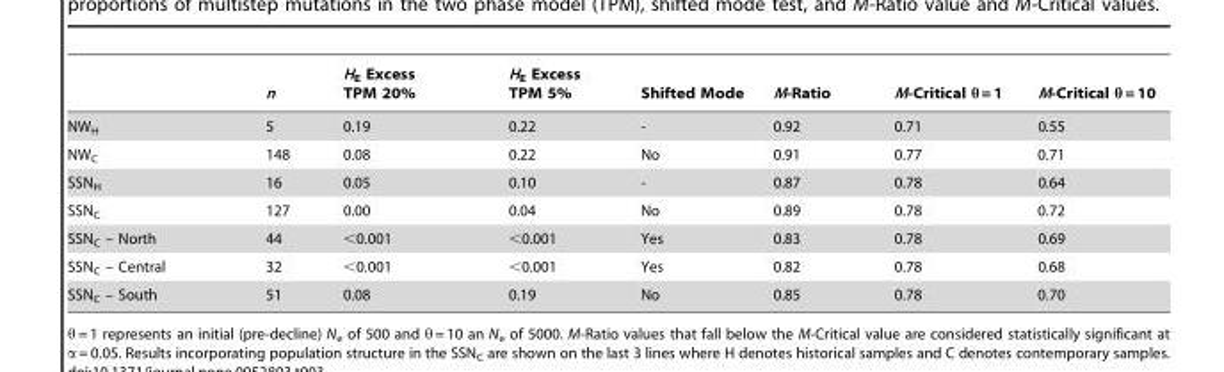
<table><thead><tr><td></td><td>n</td><td>H<sub>E</sub> Excess TPM 20%</td><td>H<sub>E</sub> Excess TPM 5%</td><td>Shifted Mode</td><td>M-Ratio</td><td>M-Critical θ = 1</td><td>M-Critical θ = 10</td></tr></thead><tbody><tr><td>NW<sub>H</sub></td><td>5</td><td>0.19</td><td>0.22</td><td>-</td><td>0.92</td><td>0.71</td><td>0.55</td></tr><tr><td>NW<sub>C</sub></td><td>148</td><td>0.08</td><td>0.22</td><td>No</td><td>0.91</td><td>0.77</td><td>0.71</td></tr><tr><td>SSN<sub>H</sub></td><td>16</td><td>0.05</td><td>0.10</td><td>-</td><td>0.87</td><td>0.78</td><td>0.64</td></tr><tr><td>SSN<sub>C</sub></td><td>127</td><td>0.00</td><td>0.04</td><td>No</td><td>0.89</td><td>0.78</td><td>0.72</td></tr><tr><td>SSN<sub>C</sub> – North</td><td>44</td><td>&lt;0.001</td><td>&lt;0.001</td><td>Yes</td><td>0.83</td><td>0.78</td><td>0.69</td></tr><tr><td>SSN<sub>C</sub> – Central</td><td>32</td><td>&lt;0.001</td><td>&lt;0.001</td><td>Yes</td><td>0.82</td><td>0.78</td><td>0.68</td></tr><tr><td>SSN<sub>C</sub> – South</td><td>51</td><td>0.08</td><td>0.19</td><td>No</td><td>0.85</td><td>0.78</td><td>0.70</td></tr></tbody></table>